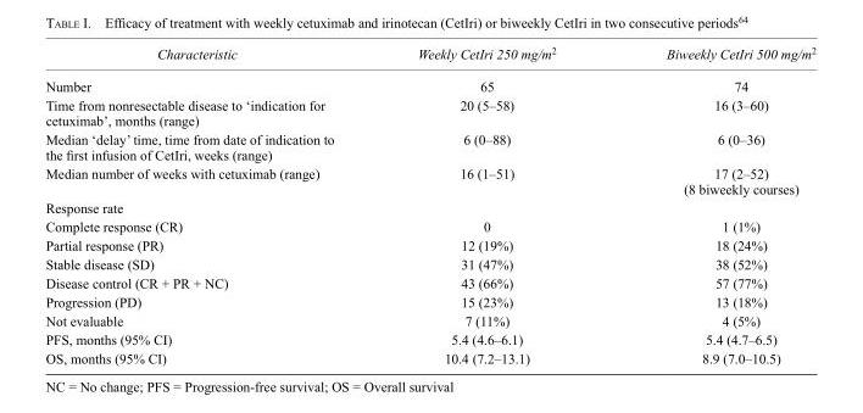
<table><thead><tr><td>Characteristic</td><td>Weekly CetIri 250 mg/m<sup>2</sup></td><td>Biweekly CetIri 500 mg/m<sup>2</sup></td></tr></thead><tbody><tr><td>Number</td><td>65</td><td>74</td></tr><tr><td>Time from nonresectable disease to ‘indication for cetuximab’, months (range)</td><td>20 (5–58)</td><td>16 (3–60)</td></tr><tr><td>Median ‘delay’ time, time from date of indication to the first infusion of CetIri, weeks (range)</td><td>6 (0–88)</td><td>6 (0–36)</td></tr><tr><td>Median number of weeks with cetuximab (range)</td><td>16 (1–51)</td><td>17 (2–52) (8 biweekly courses)</td></tr><tr><td colspan="3">Response rate</td></tr><tr><td>Complete response (CR)</td><td>0</td><td>1 (1%)</td></tr><tr><td>Partial response (PR)</td><td>12 (19%)</td><td>18 (24%)</td></tr><tr><td>Stable disease (SD)</td><td>31 (47%)</td><td>38 (52%)</td></tr><tr><td>Disease control (CR + PR + NC)</td><td>43 (66%)</td><td>57 (77%)</td></tr><tr><td>Progression (PD)</td><td>15 (23%)</td><td>13 (18%)</td></tr><tr><td>Not evaluable</td><td>7 (11%)</td><td>4 (5%)</td></tr><tr><td>PFS, months (95% CI)</td><td>5.4 (4.6–6.1)</td><td>5.4 (4.7–6.5)</td></tr><tr><td>OS, months (95% CI)</td><td>10.4 (7.2–13.1)</td><td>8.9 (7.0–10.5)</td></tr></tbody></table>